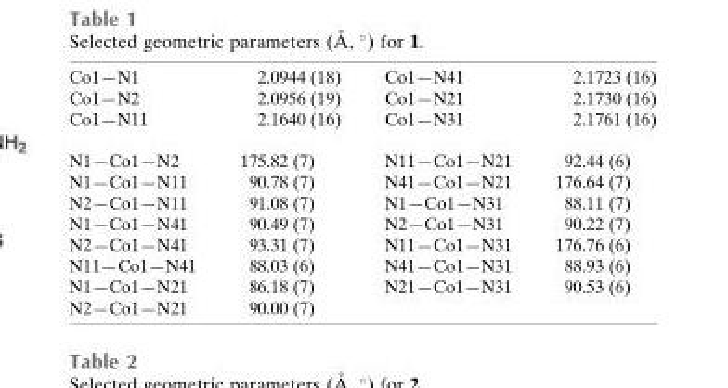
<table><tbody><tr><td>Co1—N1</td><td>2.0944 (18)</td><td>Co1—N41</td><td>2.1723 (16)</td></tr><tr><td>Co1—N2</td><td>2.0956 (19)</td><td>Co1—N21</td><td>2.1730 (16)</td></tr><tr><td>Co1—N11</td><td>2.1640 (16)</td><td>Co1—N31</td><td>2.1761 (16)</td></tr><tr><td>N1—Co1—N2</td><td>175.82 (7)</td><td>N11—Co1—N21</td><td>92.44 (6)</td></tr><tr><td>N1—Co1—N11</td><td>90.78 (7)</td><td>N41—Co1—N21</td><td>176.64 (7)</td></tr><tr><td>N2—Co1—N11</td><td>91.08 (7)</td><td>N1—Co1—N31</td><td>88.11 (7)</td></tr><tr><td>N1—Co1—N41</td><td>90.49 (7)</td><td>N2—Co1—N31</td><td>90.22 (7)</td></tr><tr><td>N2—Co1—N41</td><td>93.31 (7)</td><td>N11—Co1—N31</td><td>176.76 (6)</td></tr><tr><td>N11—Co1—N41</td><td>88.03 (6)</td><td>N41—Co1—N31</td><td>88.93 (6)</td></tr><tr><td>N1—Co1—N21</td><td>86.18 (7)</td><td>N21—Co1—N31</td><td>90.53 (6)</td></tr><tr><td>N2—Co1—N21</td><td>90.00 (7)</td><td></td><td></td></tr></tbody></table>